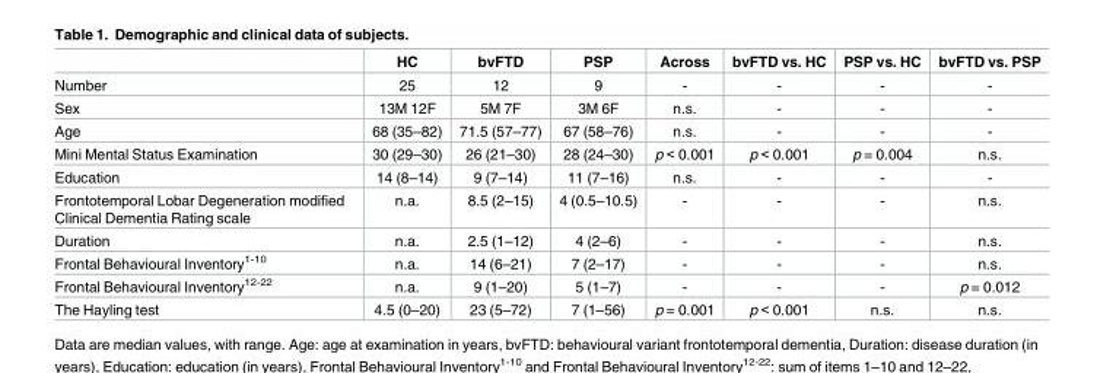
<table><thead><tr><td></td><td>HC</td><td>bvFTD</td><td>PSP</td><td>Across</td><td>bvFTD vs. HC</td><td>PSP vs. HC</td><td>bvFTD vs. PSP</td></tr></thead><tbody><tr><td>Number</td><td>25</td><td>12</td><td>9</td><td>-</td><td>-</td><td>-</td><td>-</td></tr><tr><td>Sex</td><td>13M 12F</td><td>5M 7F</td><td>3M 6F</td><td>n.s.</td><td>-</td><td>-</td><td>-</td></tr><tr><td>Age</td><td>68 (35–82)</td><td>71.5 (57–77)</td><td>67 (58–76)</td><td>n.s.</td><td>-</td><td>-</td><td>-</td></tr><tr><td>Mini Mental Status Examination</td><td>30 (29–30)</td><td>26 (21–30)</td><td>28 (24–30)</td><td>p &lt; 0.001</td><td>p &lt; 0.001</td><td>p = 0.004</td><td>n.s.</td></tr><tr><td>Education</td><td>14 (8–14)</td><td>9 (7–14)</td><td>11 (7–16)</td><td>n.s.</td><td>-</td><td>-</td><td>-</td></tr><tr><td>Frontotemporal Lobar Degeneration modified Clinical Dementia Rating scale</td><td>n.a.</td><td>8.5 (2–15)</td><td>4 (0.5–10.5)</td><td>-</td><td>-</td><td>-</td><td>n.s.</td></tr><tr><td>Duration</td><td>n.a.</td><td>2.5 (1–12)</td><td>4 (2–6)</td><td>-</td><td>-</td><td>-</td><td>n.s.</td></tr><tr><td>Frontal Behavioural Inventory<sup>1-10</sup></td><td>n.a.</td><td>14 (6–21)</td><td>7 (2–17)</td><td>-</td><td>-</td><td>-</td><td>n.s.</td></tr><tr><td>Frontal Behavioural Inventory<sup>12-22</sup></td><td>n.a.</td><td>9 (1–20)</td><td>5 (1–7)</td><td>-</td><td>-</td><td>-</td><td>p = 0.012</td></tr><tr><td>The Hayling test</td><td>4.5 (0–20)</td><td>23 (5–72)</td><td>7 (1–56)</td><td>p = 0.001</td><td>p &lt; 0.001</td><td>n.s.</td><td>n.s.</td></tr></tbody></table>